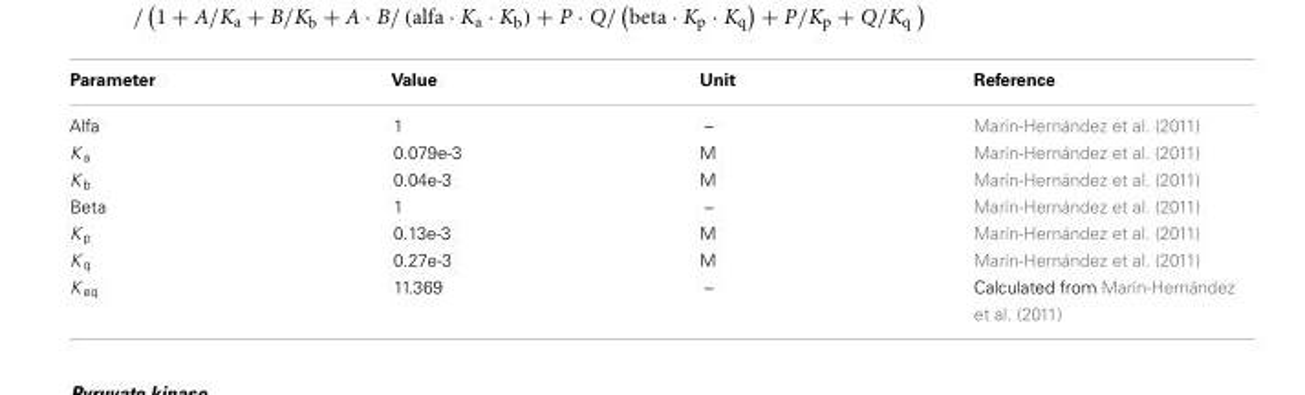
<table><thead><tr><td>Parameter</td><td>Value</td><td>Unit</td><td>Reference</td></tr></thead><tbody><tr><td>Alfa</td><td>1</td><td>–</td><td>Marín-Hernández et al. (2011)</td></tr><tr><td>K <sub>a</sub></td><td>0.079e-3</td><td>M</td><td>Marín-Hernández et al. (2011)</td></tr><tr><td>K <sub>b</sub></td><td>0.04e-3</td><td>M</td><td>Marín-Hernández et al. (2011)</td></tr><tr><td>Beta</td><td>1</td><td>–</td><td>Marín-Hernández et al. (2011)</td></tr><tr><td>K <sub>p</sub></td><td>0.13e-3</td><td>M</td><td>Marín-Hernández et al. (2011)</td></tr><tr><td>K <sub>q</sub></td><td>0.27e-3</td><td>M</td><td>Marín-Hernández et al. (2011)</td></tr><tr><td>K <sub>eq</sub></td><td>11.369</td><td>–</td><td>Calculated from Marín-Hernández et al. (2011)</td></tr></tbody></table>